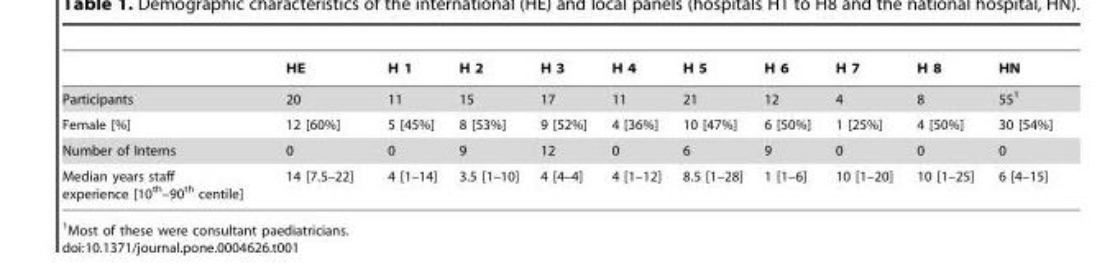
<table><thead><tr><td></td><td>HE</td><td>H 1</td><td>H 2</td><td>H 3</td><td>H 4</td><td>H 5</td><td>H 6</td><td>H 7</td><td>H 8</td><td>HN</td></tr></thead><tbody><tr><td>Participants</td><td>20</td><td>11</td><td>15</td><td>17</td><td>11</td><td>21</td><td>12</td><td>4</td><td>8</td><td>55<sup>1</sup></td></tr><tr><td>Female [%]</td><td>12 [60%]</td><td>5 [45%]</td><td>8 [53%]</td><td>9 [52%]</td><td>4 [36%]</td><td>10 [47%]</td><td>6 [50%]</td><td>1 [25%]</td><td>4 [50%]</td><td>30 [54%]</td></tr><tr><td>Number of Interns</td><td>0</td><td>0</td><td>9</td><td>12</td><td>0</td><td>6</td><td>9</td><td>0</td><td>0</td><td>0</td></tr><tr><td>Median years staff experience [10<sup>th</sup>–90<sup>th</sup> centile]</td><td>14 [7.5–22]</td><td>4 [1–14]</td><td>3.5 [1–10]</td><td>4 [4–4]</td><td>4 [1–12]</td><td>8.5 [1–28]</td><td>1 [1–6]</td><td>10 [1–20]</td><td>10 [1–25]</td><td>6 [4–15]</td></tr></tbody></table>